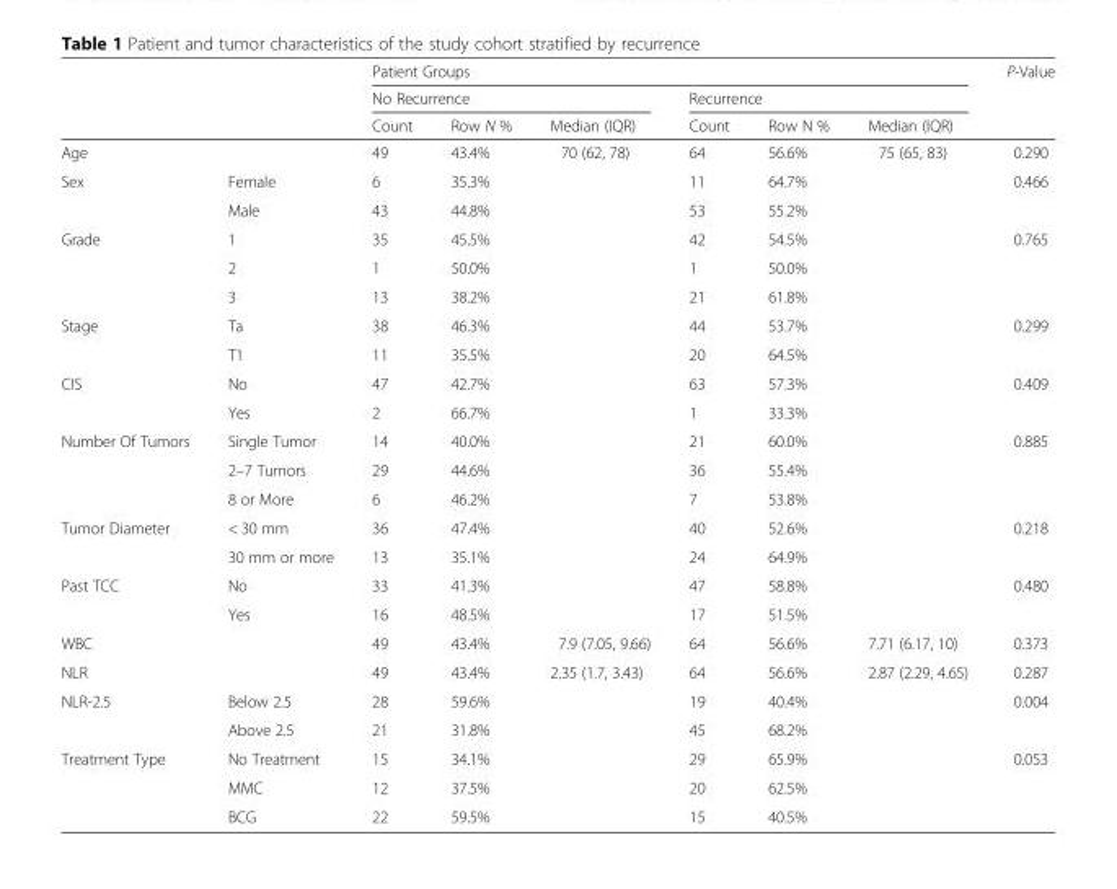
<table><thead><tr><td rowspan="3"></td><td rowspan="3"></td><td colspan="6">Patient Groups</td><td rowspan="3">P-Value</td></tr><tr><td colspan="3">No Recurrence</td><td colspan="3">Recurrence</td></tr><tr><td>Count</td><td>Row N %</td><td>Median (IQR)</td><td>Count</td><td>Row N %</td><td>Median (IQR)</td></tr></thead><tbody><tr><td colspan="2">Age</td><td>49</td><td>43.4%</td><td>70 (62, 78)</td><td>64</td><td>56.6%</td><td>75 (65, 83)</td><td>0.290</td></tr><tr><td rowspan="2">Sex</td><td>Female</td><td>6</td><td>35.3%</td><td></td><td>11</td><td>64.7%</td><td></td><td>0.466</td></tr><tr><td>Male</td><td>43</td><td>44.8%</td><td></td><td>53</td><td>55.2%</td><td></td><td></td></tr><tr><td rowspan="3">Grade</td><td>1</td><td>35</td><td>45.5%</td><td></td><td>42</td><td>54.5%</td><td></td><td>0.765</td></tr><tr><td>2</td><td>1</td><td>50.0%</td><td></td><td>1</td><td>50.0%</td><td></td><td></td></tr><tr><td>3</td><td>13</td><td>38.2%</td><td></td><td>21</td><td>61.8%</td><td></td><td></td></tr><tr><td rowspan="2">Stage</td><td>Ta</td><td>38</td><td>46.3%</td><td></td><td>44</td><td>53.7%</td><td></td><td>0.299</td></tr><tr><td>T1</td><td>11</td><td>35.5%</td><td></td><td>20</td><td>64.5%</td><td></td><td></td></tr><tr><td rowspan="2">CIS</td><td>No</td><td>47</td><td>42.7%</td><td></td><td>63</td><td>57.3%</td><td></td><td>0.409</td></tr><tr><td>Yes</td><td>2</td><td>66.7%</td><td></td><td>1</td><td>33.3%</td><td></td><td></td></tr><tr><td rowspan="3">Number Of Tumors</td><td>Single Tumor</td><td>14</td><td>40.0%</td><td></td><td>21</td><td>60.0%</td><td></td><td>0.885</td></tr><tr><td>2–7 Tumors</td><td>29</td><td>44.6%</td><td></td><td>36</td><td>55.4%</td><td></td><td></td></tr><tr><td>8 or More</td><td>6</td><td>46.2%</td><td></td><td>7</td><td>53.8%</td><td></td><td></td></tr><tr><td rowspan="2">Tumor Diameter</td><td>&lt; 30 mm</td><td>36</td><td>47.4%</td><td></td><td>40</td><td>52.6%</td><td></td><td>0.218</td></tr><tr><td>30 mm or more</td><td>13</td><td>35.1%</td><td></td><td>24</td><td>64.9%</td><td></td><td></td></tr><tr><td rowspan="2">Past TCC</td><td>No</td><td>33</td><td>41.3%</td><td></td><td>47</td><td>58.8%</td><td></td><td>0.480</td></tr><tr><td>Yes</td><td>16</td><td>48.5%</td><td></td><td>17</td><td>51.5%</td><td></td><td></td></tr><tr><td>WBC</td><td></td><td>49</td><td>43.4%</td><td>7.9 (7.05, 9.66)</td><td>64</td><td>56.6%</td><td>7.71 (6.17, 10)</td><td>0.373</td></tr><tr><td>NLR</td><td></td><td>49</td><td>43.4%</td><td>2.35 (1.7, 3.43)</td><td>64</td><td>56.6%</td><td>2.87 (2.29, 4.65)</td><td>0.287</td></tr><tr><td rowspan="2">NLR-2.5</td><td>Below 2.5</td><td>28</td><td>59.6%</td><td></td><td>19</td><td>40.4%</td><td></td><td>0.004</td></tr><tr><td>Above 2.5</td><td>21</td><td>31.8%</td><td></td><td>45</td><td>68.2%</td><td></td><td></td></tr><tr><td rowspan="3">Treatment Type</td><td>No Treatment</td><td>15</td><td>34.1%</td><td></td><td>29</td><td>65.9%</td><td></td><td>0.053</td></tr><tr><td>MMC</td><td>12</td><td>37.5%</td><td></td><td>20</td><td>62.5%</td><td></td><td></td></tr><tr><td>BCG</td><td>22</td><td>59.5%</td><td></td><td>15</td><td>40.5%</td><td></td><td></td></tr></tbody></table>